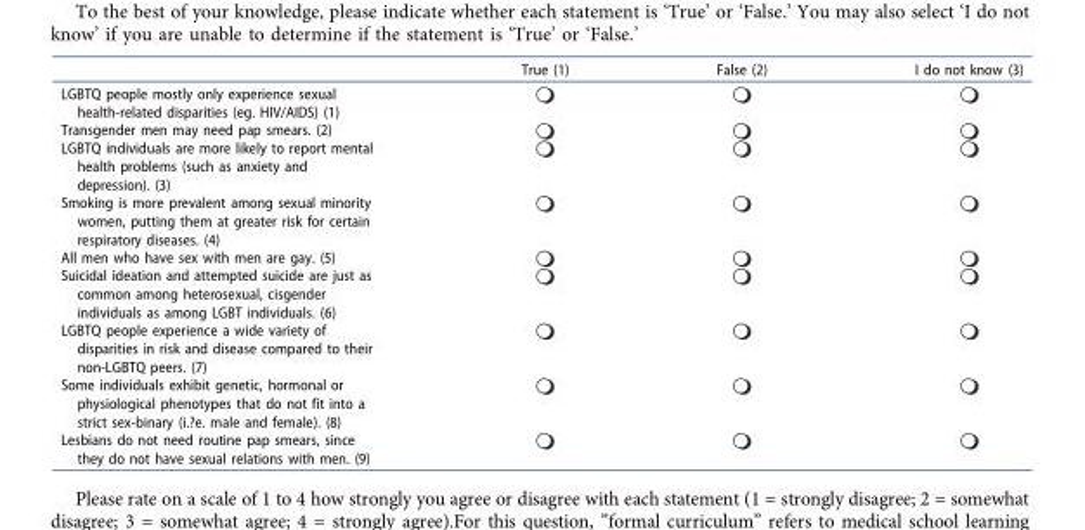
<table><thead><tr><td></td><td>True (1)</td><td>False (2)</td><td>I do not know (3)</td></tr></thead><tbody><tr><td colspan="4">LGBTQ people mostly only experience sexual health-related disparities (eg. HIV/AIDS) (1)</td></tr><tr><td colspan="4">Transgender men may need pap smears. (2)</td></tr><tr><td colspan="4">LGBTQ individuals are more likely to report mental health problems (such as anxiety and depression). (3)</td></tr><tr><td colspan="4">Smoking is more prevalent among sexual minority women, putting them at greater risk for certain respiratory diseases. (4)</td></tr><tr><td colspan="4">All men who have sex with men are gay. (5)</td></tr><tr><td colspan="4">Suicidal ideation and attempted suicide are just as common among heterosexual, cisgender individuals as among LGBT individuals. (6)</td></tr><tr><td colspan="4">LGBTQ people experience a wide variety of disparities in risk and disease compared to their non-LGBTQ peers. (7)</td></tr><tr><td colspan="4">Some individuals exhibit genetic, hormonal or physiological phenotypes that do not fit into a strict sex-binary (i.?e. male and female). (8)</td></tr><tr><td>Lesbians do not need routine pap smears, since they do not have sexual relations with men. (9)</td><td></td><td></td><td></td></tr></tbody></table>